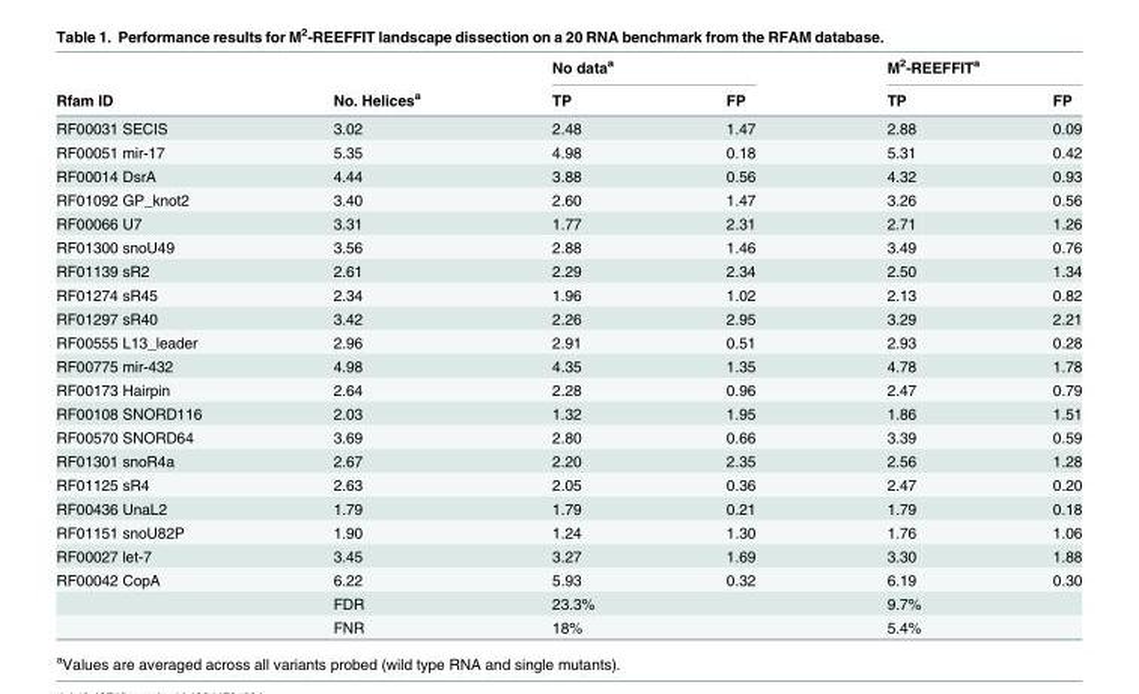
<table><thead><tr><td rowspan="2">Rfam ID</td><td rowspan="2">No. Helices<sup>a</sup></td><td colspan="2">No data<sup>a</sup></td><td colspan="2">M<sup>2</sup>-REEFFIT<sup>a</sup></td></tr><tr><td>TP</td><td>FP</td><td>TP</td><td>FP</td></tr></thead><tbody><tr><td>RF00031 SECIS</td><td>3.02</td><td>2.48</td><td>1.47</td><td>2.88</td><td>0.09</td></tr><tr><td>RF00051 mir-17</td><td>5.35</td><td>4.98</td><td>0.18</td><td>5.31</td><td>0.42</td></tr><tr><td>RF00014 DsrA</td><td>4.44</td><td>3.88</td><td>0.56</td><td>4.32</td><td>0.93</td></tr><tr><td>RF01092 GP_knot2</td><td>3.40</td><td>2.60</td><td>1.47</td><td>3.26</td><td>0.56</td></tr><tr><td>RF00066 U7</td><td>3.31</td><td>1.77</td><td>2.31</td><td>2.71</td><td>1.26</td></tr><tr><td>RF01300 snoU49</td><td>3.56</td><td>2.88</td><td>1.46</td><td>3.49</td><td>0.76</td></tr><tr><td>RF01139 sR2</td><td>2.61</td><td>2.29</td><td>2.34</td><td>2.50</td><td>1.34</td></tr><tr><td>RF01274 sR45</td><td>2.34</td><td>1.96</td><td>1.02</td><td>2.13</td><td>0.82</td></tr><tr><td>RF01297 sR40</td><td>3.42</td><td>2.26</td><td>2.95</td><td>3.29</td><td>2.21</td></tr><tr><td>RF00555 L13_leader</td><td>2.96</td><td>2.91</td><td>0.51</td><td>2.93</td><td>0.28</td></tr><tr><td>RF00775 mir-432</td><td>4.98</td><td>4.35</td><td>1.35</td><td>4.78</td><td>1.78</td></tr><tr><td>RF00173 Hairpin</td><td>2.64</td><td>2.28</td><td>0.96</td><td>2.47</td><td>0.79</td></tr><tr><td>RF00108 SNORD116</td><td>2.03</td><td>1.32</td><td>1.95</td><td>1.86</td><td>1.51</td></tr><tr><td>RF00570 SNORD64</td><td>3.69</td><td>2.80</td><td>0.66</td><td>3.39</td><td>0.59</td></tr><tr><td>RF01301 snoR4a</td><td>2.67</td><td>2.20</td><td>2.35</td><td>2.56</td><td>1.28</td></tr><tr><td>RF01125 sR4</td><td>2.63</td><td>2.05</td><td>0.36</td><td>2.47</td><td>0.20</td></tr><tr><td>RF00436 UnaL2</td><td>1.79</td><td>1.79</td><td>0.21</td><td>1.79</td><td>0.18</td></tr><tr><td>RF01151 snoU82P</td><td>1.90</td><td>1.24</td><td>1.30</td><td>1.76</td><td>1.06</td></tr><tr><td>RF00027 let-7</td><td>3.45</td><td>3.27</td><td>1.69</td><td>3.30</td><td>1.88</td></tr><tr><td rowspan="3">RF00042 CopA</td><td>6.22</td><td>5.93</td><td>0.32</td><td>6.19</td><td>0.30</td></tr><tr><td>FDR</td><td>23.3%</td><td></td><td>9.7%</td><td></td></tr><tr><td>FNR</td><td>18%</td><td></td><td>5.4%</td><td></td></tr></tbody></table>